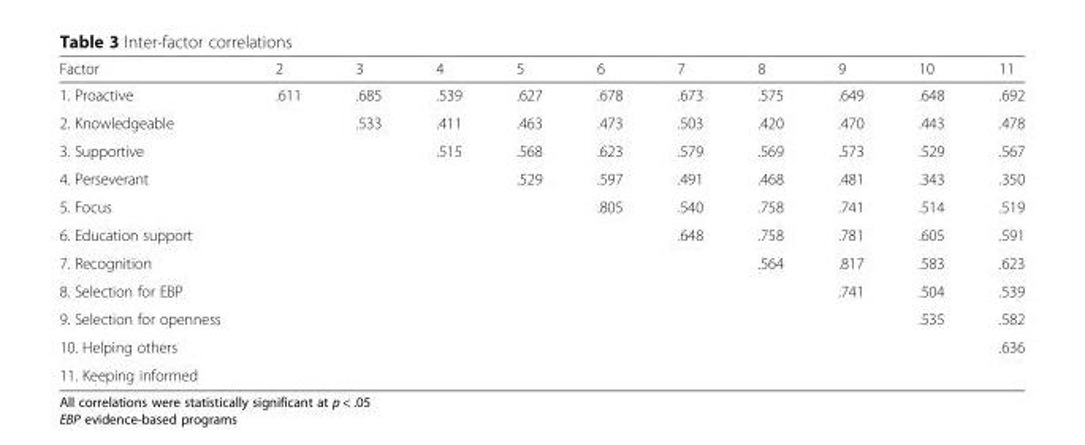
<table><thead><tr><td>Factor</td><td>2</td><td>3</td><td>4</td><td>5</td><td>6</td><td>7</td><td>8</td><td>9</td><td>10</td><td>11</td></tr></thead><tbody><tr><td>1. Proactive</td><td>.611</td><td>.685</td><td>.539</td><td>.627</td><td>.678</td><td>.673</td><td>.575</td><td>.649</td><td>.648</td><td>.692</td></tr><tr><td>2. Knowledgeable</td><td></td><td>.533</td><td>.411</td><td>.463</td><td>.473</td><td>.503</td><td>.420</td><td>.470</td><td>.443</td><td>.478</td></tr><tr><td>3. Supportive</td><td></td><td></td><td>.515</td><td>.568</td><td>.623</td><td>.579</td><td>.569</td><td>.573</td><td>.529</td><td>.567</td></tr><tr><td>4. Perseverant</td><td></td><td></td><td></td><td>.529</td><td>.597</td><td>.491</td><td>.468</td><td>.481</td><td>.343</td><td>.350</td></tr><tr><td>5. Focus</td><td></td><td></td><td></td><td></td><td>.805</td><td>.540</td><td>.758</td><td>.741</td><td>.514</td><td>.519</td></tr><tr><td>6. Education support</td><td></td><td></td><td></td><td></td><td></td><td>.648</td><td>.758</td><td>.781</td><td>.605</td><td>.591</td></tr><tr><td>7. Recognition</td><td></td><td></td><td></td><td></td><td></td><td></td><td>.564</td><td>.817</td><td>.583</td><td>.623</td></tr><tr><td>8. Selection for EBP</td><td></td><td></td><td></td><td></td><td></td><td></td><td></td><td>.741</td><td>.504</td><td>.539</td></tr><tr><td>9. Selection for openness</td><td></td><td></td><td></td><td></td><td></td><td></td><td></td><td></td><td>.535</td><td>.582</td></tr><tr><td>10. Helping others</td><td></td><td></td><td></td><td></td><td></td><td></td><td></td><td></td><td></td><td>.636</td></tr><tr><td>11. Keeping informed</td><td></td><td></td><td></td><td></td><td></td><td></td><td></td><td></td><td></td><td></td></tr></tbody></table>